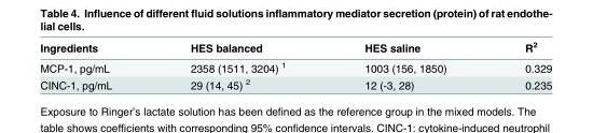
<table><thead><tr><td>Ingredients</td><td>HES balanced</td><td>HES saline</td><td>R<sup>2</sup></td></tr></thead><tbody><tr><td>MCP-1, pg/mL</td><td>2358 (1511, 3204) <sup>1</sup></td><td>1003 (156, 1850)</td><td>0.329</td></tr><tr><td>CINC-1, pg/mL</td><td>29 (14, 45) <sup>2</sup></td><td>12 (-3, 28)</td><td>0.235</td></tr></tbody></table>